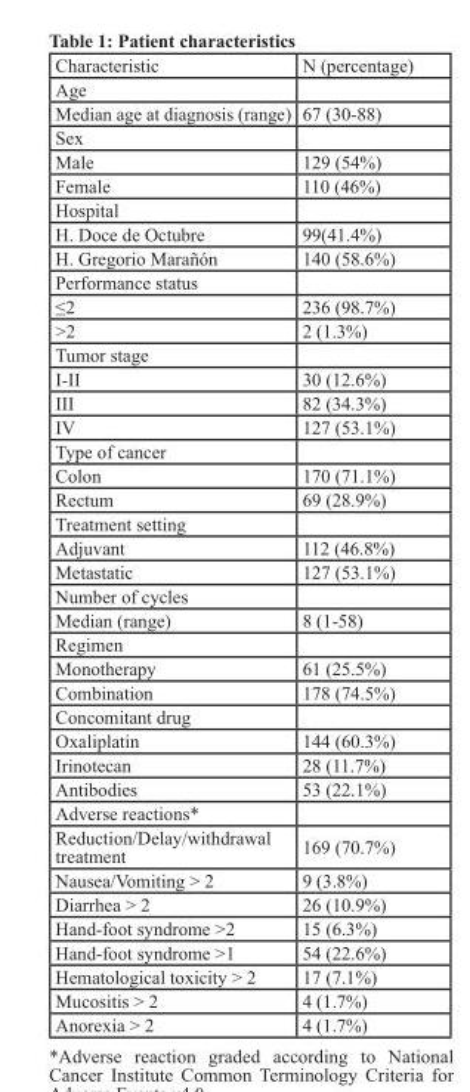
<table><thead><tr><td>Characteristic</td><td>N (percentage)</td></tr></thead><tbody><tr><td colspan="2">Age</td></tr><tr><td>Median age at diagnosis (range)</td><td>67 (30-88)</td></tr><tr><td colspan="2">Sex</td></tr><tr><td>Male</td><td>129 (54%)</td></tr><tr><td>Female</td><td>110 (46%)</td></tr><tr><td colspan="2">Hospital</td></tr><tr><td>H. Doce de Octubre</td><td>99(41.4%)</td></tr><tr><td>H. Gregorio Marañón</td><td>140 (58.6%)</td></tr><tr><td colspan="2">Performance status</td></tr><tr><td>≤2</td><td>236 (98.7%)</td></tr><tr><td>&gt;2</td><td>2 (1.3%)</td></tr><tr><td colspan="2">Tumor stage</td></tr><tr><td>I-II</td><td>30 (12.6%)</td></tr><tr><td>III</td><td>82 (34.3%)</td></tr><tr><td>IV</td><td>127 (53.1%)</td></tr><tr><td colspan="2">Type of cancer</td></tr><tr><td>Colon</td><td>170 (71.1%)</td></tr><tr><td>Rectum</td><td>69 (28.9%)</td></tr><tr><td colspan="2">Treatment setting</td></tr><tr><td>Adjuvant</td><td>112 (46.8%)</td></tr><tr><td>Metastatic</td><td>127 (53.1%)</td></tr><tr><td colspan="2">Number of cycles</td></tr><tr><td>Median (range)</td><td>8 (1-58)</td></tr><tr><td colspan="2">Regimen</td></tr><tr><td>Monotherapy</td><td>61 (25.5%)</td></tr><tr><td>Combination</td><td>178 (74.5%)</td></tr><tr><td colspan="2">Concomitant drug</td></tr><tr><td>Oxaliplatin</td><td>144 (60.3%)</td></tr><tr><td>Irinotecan</td><td>28 (11.7%)</td></tr><tr><td>Antibodies</td><td>53 (22.1%)</td></tr><tr><td colspan="2">Adverse reactions*</td></tr><tr><td>Reduction/Delay/withdrawal treatment</td><td>169 (70.7%)</td></tr><tr><td>Nausea/Vomiting &gt; 2</td><td>9 (3.8%)</td></tr><tr><td>Diarrhea &gt; 2</td><td>26 (10.9%)</td></tr><tr><td>Hand-foot syndrome &gt;2</td><td>15 (6.3%)</td></tr><tr><td>Hand-foot syndrome &gt;1</td><td>54 (22.6%)</td></tr><tr><td>Hematological toxicity &gt; 2</td><td>17 (7.1%)</td></tr><tr><td>Mucositis &gt; 2</td><td>4 (1.7%)</td></tr><tr><td>Anorexia &gt; 2</td><td>4 (1.7%)</td></tr></tbody></table>